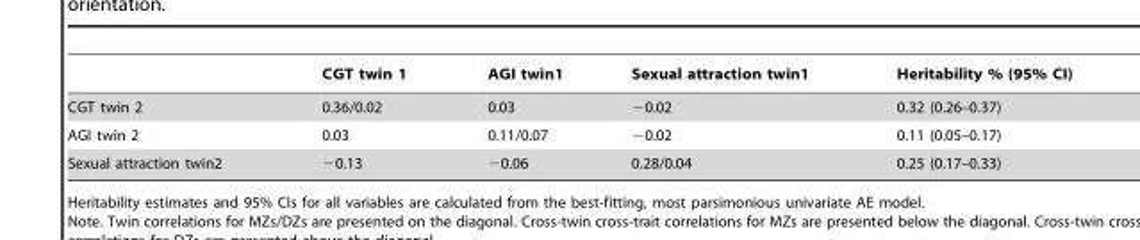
<table><thead><tr><td></td><td>CGT twin 1</td><td>AGI twin1</td><td>Sexual attraction twin1</td><td>Heritability % (95% CI)</td></tr></thead><tbody><tr><td>CGT twin 2</td><td>0.36/0.02</td><td>0.03</td><td>−0.02</td><td>0.32 (0.26–0.37)</td></tr><tr><td>AGI twin 2</td><td>0.03</td><td>0.11/0.07</td><td>−0.02</td><td>0.11 (0.05–0.17)</td></tr><tr><td>Sexual attraction twin2</td><td>−0.13</td><td>−0.06</td><td>0.28/0.04</td><td>0.25 (0.17–0.33)</td></tr></tbody></table>